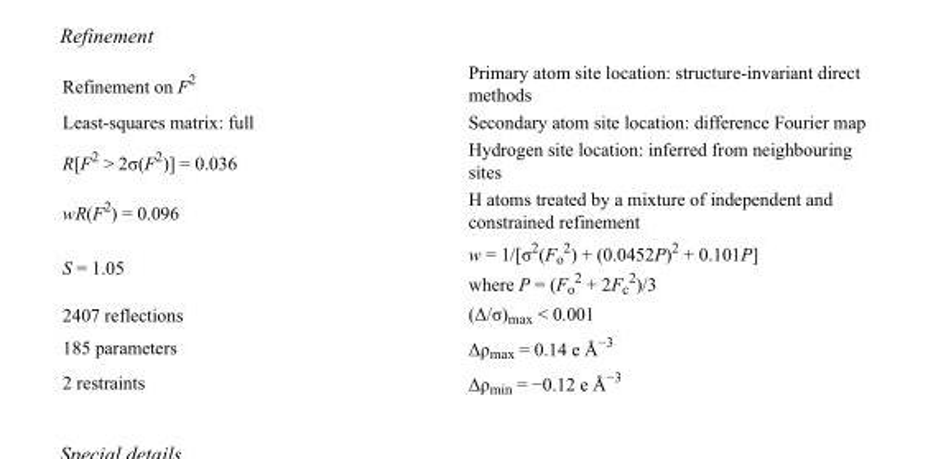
<table><tbody><tr><td>Refinement on F<sup>2</sup></td><td>Primary atom site location: structure-invariant direct methods</td></tr><tr><td>Least-squares matrix: full</td><td>Secondary atom site location: difference Fourier map</td></tr><tr><td>R[F<sup>2</sup> &gt; 2σ(F<sup>2</sup>)] = 0.036</td><td>Hydrogen site location: inferred from neighbouring sites</td></tr><tr><td>wR(F<sup>2</sup>) = 0.096</td><td>H atoms treated by a mixture of independent and constrained refinement</td></tr><tr><td>S = 1.05</td><td>w = 1/[σ<sup>2</sup>(F<sub>o</sub> <sup>2</sup>) + (0.0452P)<sup>2</sup> + 0.101P] where P = (F<sub>o</sub> <sup>2</sup> + 2F<sub>c</sub> <sup>2</sup>)/3</td></tr><tr><td>2407 reflections</td><td>(Δ/σ)<sub>max</sub> &lt; 0.001</td></tr><tr><td>185 parameters</td><td>Δρ<sub>max</sub> = 0.14 e Å<sup>−3</sup></td></tr><tr><td>2 restraints</td><td>Δρ<sub>min</sub> = −0.12 e Å<sup>−3</sup></td></tr></tbody></table>